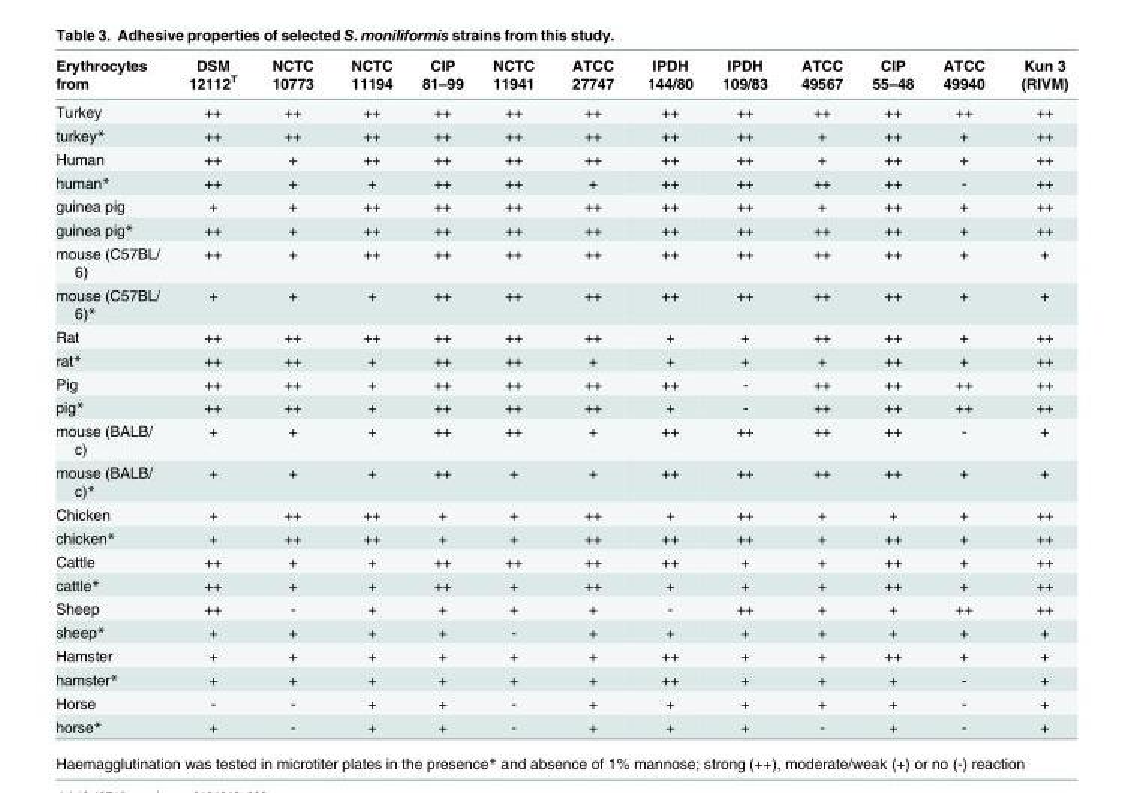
<table><thead><tr><td>Erythrocytes from</td><td>DSM 12112<sup>T</sup></td><td>NCTC 10773</td><td>NCTC 11194</td><td>CIP 81–99</td><td>NCTC 11941</td><td>ATCC 27747</td><td>IPDH 144/80</td><td>IPDH 109/83</td><td>ATCC 49567</td><td>CIP 55–48</td><td>ATCC 49940</td><td>Kun 3 (RIVM)</td></tr></thead><tbody><tr><td>Turkey</td><td>++</td><td>++</td><td>++</td><td>++</td><td>++</td><td>++</td><td>++</td><td>++</td><td>++</td><td>++</td><td>++</td><td>++</td></tr><tr><td>turkey*</td><td>++</td><td>++</td><td>++</td><td>++</td><td>++</td><td>++</td><td>++</td><td>++</td><td>+</td><td>++</td><td>+</td><td>++</td></tr><tr><td>Human</td><td>++</td><td>+</td><td>++</td><td>++</td><td>++</td><td>++</td><td>++</td><td>++</td><td>+</td><td>++</td><td>+</td><td>++</td></tr><tr><td>human*</td><td>++</td><td>+</td><td>+</td><td>++</td><td>++</td><td>+</td><td>++</td><td>++</td><td>++</td><td>++</td><td>-</td><td>++</td></tr><tr><td>guinea pig</td><td>+</td><td>+</td><td>++</td><td>++</td><td>++</td><td>++</td><td>++</td><td>++</td><td>+</td><td>++</td><td>+</td><td>++</td></tr><tr><td>guinea pig*</td><td>++</td><td>+</td><td>++</td><td>++</td><td>++</td><td>++</td><td>++</td><td>++</td><td>++</td><td>++</td><td>+</td><td>++</td></tr><tr><td>mouse (C57BL/ 6)</td><td>++</td><td>+</td><td>++</td><td>++</td><td>++</td><td>++</td><td>++</td><td>++</td><td>++</td><td>++</td><td>+</td><td>+</td></tr><tr><td>mouse (C57BL/ 6)*</td><td>+</td><td>+</td><td>+</td><td>++</td><td>++</td><td>++</td><td>++</td><td>++</td><td>++</td><td>++</td><td>+</td><td>+</td></tr><tr><td>Rat</td><td>++</td><td>++</td><td>++</td><td>++</td><td>++</td><td>++</td><td>+</td><td>+</td><td>++</td><td>++</td><td>+</td><td>++</td></tr><tr><td>rat*</td><td>++</td><td>++</td><td>+</td><td>++</td><td>++</td><td>+</td><td>+</td><td>+</td><td>+</td><td>++</td><td>+</td><td>++</td></tr><tr><td>Pig</td><td>++</td><td>++</td><td>+</td><td>++</td><td>++</td><td>++</td><td>++</td><td>-</td><td>++</td><td>++</td><td>++</td><td>++</td></tr><tr><td>pig*</td><td>++</td><td>++</td><td>+</td><td>++</td><td>++</td><td>++</td><td>+</td><td>-</td><td>++</td><td>++</td><td>++</td><td>++</td></tr><tr><td>mouse (BALB/ c)</td><td>+</td><td>+</td><td>+</td><td>++</td><td>++</td><td>+</td><td>++</td><td>++</td><td>++</td><td>++</td><td>-</td><td>+</td></tr><tr><td>mouse (BALB/ c)*</td><td>+</td><td>+</td><td>+</td><td>++</td><td>+</td><td>+</td><td>++</td><td>++</td><td>++</td><td>++</td><td>+</td><td>+</td></tr><tr><td>Chicken</td><td>+</td><td>++</td><td>++</td><td>+</td><td>+</td><td>++</td><td>+</td><td>++</td><td>+</td><td>+</td><td>+</td><td>++</td></tr><tr><td>chicken*</td><td>+</td><td>++</td><td>++</td><td>+</td><td>+</td><td>++</td><td>++</td><td>++</td><td>+</td><td>++</td><td>+</td><td>++</td></tr><tr><td>Cattle</td><td>++</td><td>+</td><td>+</td><td>++</td><td>++</td><td>++</td><td>++</td><td>+</td><td>+</td><td>++</td><td>+</td><td>++</td></tr><tr><td>cattle*</td><td>++</td><td>+</td><td>+</td><td>++</td><td>+</td><td>++</td><td>+</td><td>+</td><td>+</td><td>++</td><td>+</td><td>++</td></tr><tr><td>Sheep</td><td>++</td><td>-</td><td>+</td><td>+</td><td>+</td><td>+</td><td>-</td><td>++</td><td>+</td><td>+</td><td>++</td><td>++</td></tr><tr><td>sheep*</td><td>+</td><td>+</td><td>+</td><td>+</td><td>-</td><td>+</td><td>+</td><td>+</td><td>+</td><td>+</td><td>+</td><td>+</td></tr><tr><td>Hamster</td><td>+</td><td>+</td><td>+</td><td>+</td><td>+</td><td>+</td><td>++</td><td>+</td><td>+</td><td>++</td><td>+</td><td>+</td></tr><tr><td>hamster*</td><td>+</td><td>+</td><td>+</td><td>+</td><td>+</td><td>+</td><td>++</td><td>+</td><td>+</td><td>+</td><td>-</td><td>+</td></tr><tr><td>Horse</td><td>-</td><td>-</td><td>+</td><td>+</td><td>-</td><td>+</td><td>+</td><td>+</td><td>+</td><td>+</td><td>-</td><td>+</td></tr><tr><td>horse*</td><td>+</td><td>-</td><td>+</td><td>+</td><td>-</td><td>+</td><td>+</td><td>+</td><td>-</td><td>+</td><td>-</td><td>+</td></tr></tbody></table>